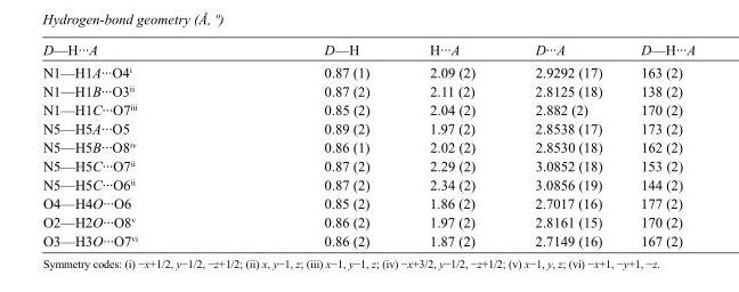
<table><tbody><tr><td>D—H···A</td><td>D—H</td><td>H···A</td><td>D···A</td><td>D—H···A</td></tr><tr><td>N1—H1A···O4<sup>i</sup></td><td>0.87 (1)</td><td>2.09 (2)</td><td>2.9292 (17)</td><td>163 (2)</td></tr><tr><td>N1—H1B···O3<sup>ii</sup></td><td>0.87 (2)</td><td>2.11 (2)</td><td>2.8125 (18)</td><td>138 (2)</td></tr><tr><td>N1—H1C···O7<sup>iii</sup></td><td>0.85 (2)</td><td>2.04 (2)</td><td>2.882 (2)</td><td>170 (2)</td></tr><tr><td>N5—H5A···O5</td><td>0.89 (2)</td><td>1.97 (2)</td><td>2.8538 (17)</td><td>173 (2)</td></tr><tr><td>N5—H5B···O8<sup>iv</sup></td><td>0.86 (1)</td><td>2.02 (2)</td><td>2.8530 (18)</td><td>162 (2)</td></tr><tr><td>N5—H5C···O7<sup>ii</sup></td><td>0.87 (2)</td><td>2.29 (2)</td><td>3.0852 (18)</td><td>153 (2)</td></tr><tr><td>N5—H5C···O6<sup>ii</sup></td><td>0.87 (2)</td><td>2.34 (2)</td><td>3.0856 (19)</td><td>144 (2)</td></tr><tr><td>O4—H4O···O6</td><td>0.85 (2)</td><td>1.86 (2)</td><td>2.7017 (16)</td><td>177 (2)</td></tr><tr><td>O2—H2O···O8<sup>v</sup></td><td>0.86 (2)</td><td>1.97 (2)</td><td>2.8161 (15)</td><td>170 (2)</td></tr><tr><td>O3—H3O···O7<sup>vi</sup></td><td>0.86 (2)</td><td>1.87 (2)</td><td>2.7149 (16)</td><td>167 (2)</td></tr></tbody></table>